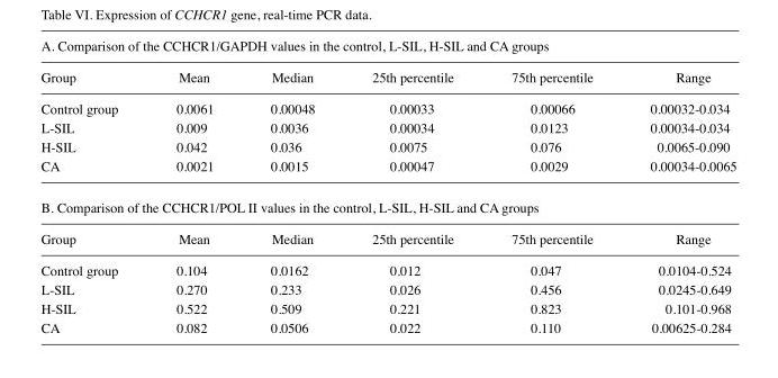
<table><thead><tr><td colspan="6">A. Comparison of the CCHCR1/GAPDH values in the control, L-SIL, H-SIL and CA groups</td></tr><tr><td>Group</td><td>Mean</td><td>Median</td><td>25th percentile</td><td>75th percentile</td><td>Range</td></tr></thead><tbody><tr><td>Control group</td><td>0.0061</td><td>0.00048</td><td>0.00033</td><td>0.00066</td><td>0.00032-0.034</td></tr><tr><td>L-SIL</td><td>0.009</td><td>0.0036</td><td>0.00034</td><td>0.0123</td><td>0.00034-0.034</td></tr><tr><td>H-SIL</td><td>0.042</td><td>0.036</td><td>0.0075</td><td>0.076</td><td>0.0065-0.090</td></tr><tr><td>CA</td><td>0.0021</td><td>0.0015</td><td>0.00047</td><td>0.0029</td><td>0.00034-0.0065</td></tr><tr><td colspan="6">B. Comparison of the CCHCR1/POL II values in the control, L-SIL, H-SIL and CA groups</td></tr><tr><td>Group</td><td>Mean</td><td>Median</td><td>25th percentile</td><td>75th percentile</td><td>Range</td></tr><tr><td>Control group</td><td>0.104</td><td>0.0162</td><td>0.012</td><td>0.047</td><td>0.0104-0.524</td></tr><tr><td>L-SIL</td><td>0.270</td><td>0.233</td><td>0.026</td><td>0.456</td><td>0.0245-0.649</td></tr><tr><td>H-SIL</td><td>0.522</td><td>0.509</td><td>0.221</td><td>0.823</td><td>0.101-0.968</td></tr><tr><td>CA</td><td>0.082</td><td>0.0506</td><td>0.022</td><td>0.110</td><td>0.00625-0.284</td></tr></tbody></table>